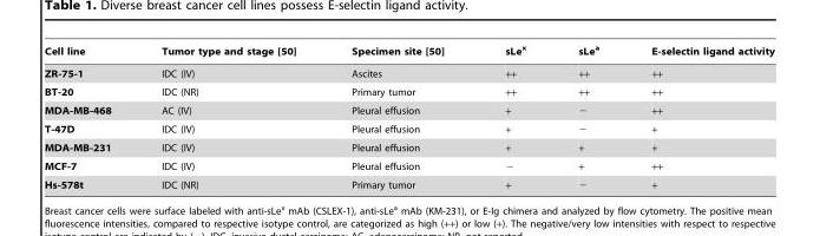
<table><thead><tr><td>Cell line</td><td>Tumor type and stage [50]</td><td>Specimen site [50]</td><td>sLe<sup>x</sup></td><td>sLe<sup>a</sup></td><td>E-selectin ligand activity</td></tr></thead><tbody><tr><td>ZR-75-1</td><td>IDC (IV)</td><td>Ascites</td><td>++</td><td>++</td><td>++</td></tr><tr><td>BT-20</td><td>IDC (NR)</td><td>Primary tumor</td><td>++</td><td>++</td><td>++</td></tr><tr><td>MDA-MB-468</td><td>AC (IV)</td><td>Pleural effusion</td><td>+</td><td>−</td><td>++</td></tr><tr><td>T-47D</td><td>IDC (IV)</td><td>Pleural effusion</td><td>+</td><td>−</td><td>+</td></tr><tr><td>MDA-MB-231</td><td>IDC (IV)</td><td>Pleural effusion</td><td>+</td><td>+</td><td>+</td></tr><tr><td>MCF-7</td><td>IDC (IV)</td><td>Pleural effusion</td><td>−</td><td>+</td><td>++</td></tr><tr><td>Hs-578t</td><td>IDC (NR)</td><td>Primary tumor</td><td>+</td><td>−</td><td>+</td></tr></tbody></table>